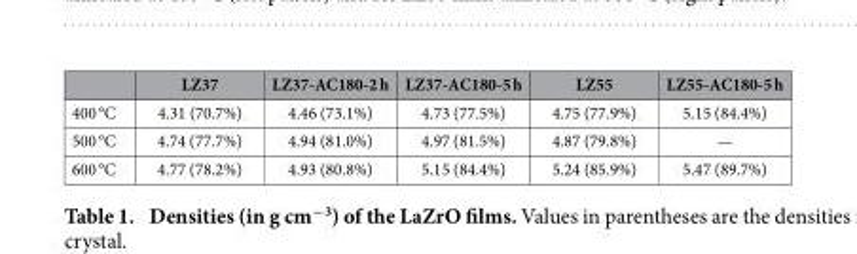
<table><thead><tr><td></td><td>LZ37</td><td>LZ37-AC180-2 h</td><td>LZ37-AC180-5 h</td><td>LZ55</td><td>LZ55-AC180-5 h</td></tr></thead><tbody><tr><td>400 °C</td><td>4.31 (70.7%)</td><td>4.46 (73.1%)</td><td>4.73 (77.5%)</td><td>4.75 (77.9%)</td><td>5.15 (84.4%)</td></tr><tr><td>500 °C</td><td>4.74 (77.7%)</td><td>4.94 (81.0%)</td><td>4.97 (81.5%)</td><td>4.87 (79.8%)</td><td>—</td></tr><tr><td>600 °C</td><td>4.77 (78.2%)</td><td>4.93 (80.8%)</td><td>5.15 (84.4%)</td><td>5.24 (85.9%)</td><td>5.47 (89.7%)</td></tr></tbody></table>